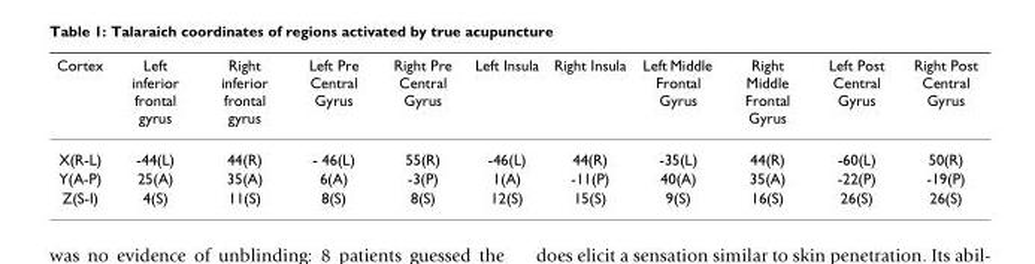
<table><thead><tr><td>Cortex</td><td>Left inferior frontal gyrus</td><td>Right inferior frontal gyrus</td><td>Left Pre Central Gyrus</td><td>Right Pre Central Gyrus</td><td>Left Insula</td><td>Right Insula</td><td>Left Middle Frontal Gyrus</td><td>Right Middle Frontal Gyrus</td><td>Left Post Central Gyrus</td><td>Right Post Central Gyrus</td></tr></thead><tbody><tr><td>X(R-L)</td><td>-44(L)</td><td>44(R)</td><td>- 46(L)</td><td>55(R)</td><td>-46(L)</td><td>44(R)</td><td>-35(L)</td><td>44(R)</td><td>-60(L)</td><td>50(R)</td></tr><tr><td>Y(A-P)</td><td>25(A)</td><td>35(A)</td><td>6(A)</td><td>-3(P)</td><td>1(A)</td><td>-11(P)</td><td>40(A)</td><td>35(A)</td><td>-22(P)</td><td>-19(P)</td></tr><tr><td>Z(S-I)</td><td>4(S)</td><td>11(S)</td><td>8(S)</td><td>8(S)</td><td>12(S)</td><td>15(S)</td><td>9(S)</td><td>16(S)</td><td>26(S)</td><td>26(S)</td></tr></tbody></table>